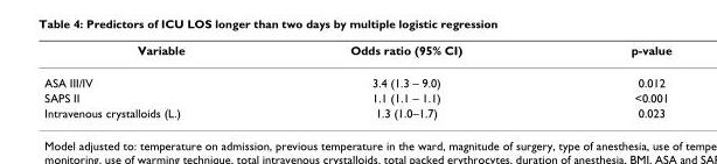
<table><thead><tr><td>Variable</td><td>Odds ratio (95% CI)</td><td>p-value</td></tr></thead><tbody><tr><td>ASA III/IV</td><td>3.4 (1.3 – 9.0)</td><td>0.012</td></tr><tr><td>SAPS II</td><td>1.1 (1.1 – 1.1)</td><td>&lt;0.001</td></tr><tr><td>Intravenous crystalloids (L.)</td><td>1.3 (1.0–1.7)</td><td>0.023</td></tr></tbody></table>